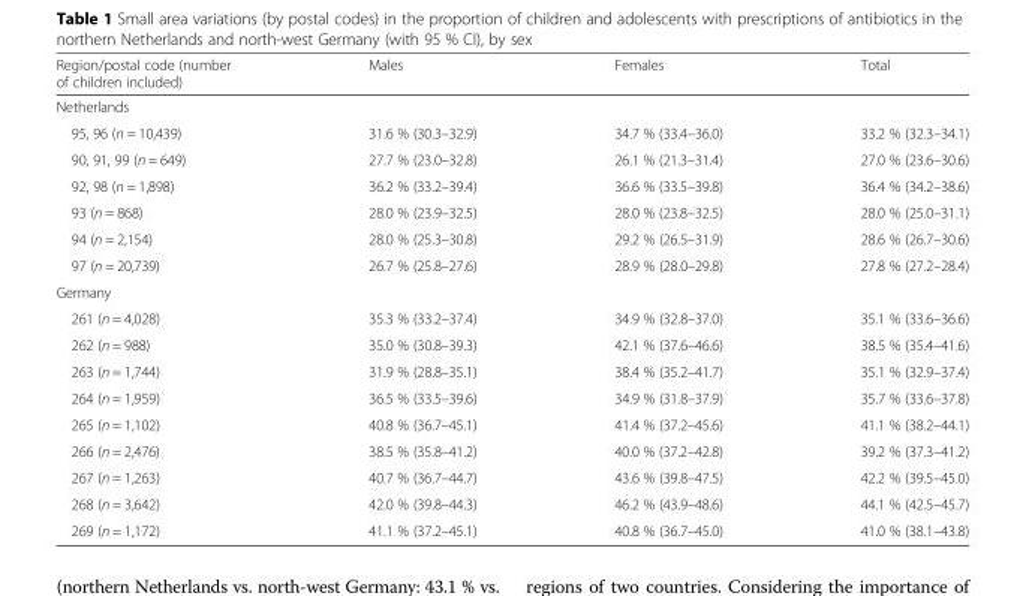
<table><thead><tr><td>Region/postal code (number of children included)</td><td>Males</td><td>Females</td><td>Total</td></tr></thead><tbody><tr><td colspan="4">Netherlands</td></tr><tr><td>95, 96 (n = 10,439)</td><td>31.6 % (30.3–32.9)</td><td>34.7 % (33.4–36.0)</td><td>33.2 % (32.3–34.1)</td></tr><tr><td>90, 91, 99 (n = 649)</td><td>27.7 % (23.0–32.8)</td><td>26.1 % (21.3–31.4)</td><td>27.0 % (23.6–30.6)</td></tr><tr><td>92, 98 (n = 1,898)</td><td>36.2 % (33.2–39.4)</td><td>36.6 % (33.5–39.8)</td><td>36.4 % (34.2–38.6)</td></tr><tr><td>93 (n = 868)</td><td>28.0 % (23.9–32.5)</td><td>28.0 % (23.8–32.5)</td><td>28.0 % (25.0–31.1)</td></tr><tr><td>94 (n = 2,154)</td><td>28.0 % (25.3–30.8)</td><td>29.2 % (26.5–31.9)</td><td>28.6 % (26.7–30.6)</td></tr><tr><td>97 (n = 20,739)</td><td>26.7 % (25.8–27.6)</td><td>28.9 % (28.0–29.8)</td><td>27.8 % (27.2–28.4)</td></tr><tr><td colspan="4">Germany</td></tr><tr><td>261 (n = 4,028)</td><td>35.3 % (33.2–37.4)</td><td>34.9 % (32.8–37.0)</td><td>35.1 % (33.6–36.6)</td></tr><tr><td>262 (n = 988)</td><td>35.0 % (30.8–39.3)</td><td>42.1 % (37.6–46.6)</td><td>38.5 % (35.4–41.6)</td></tr><tr><td>263 (n = 1,744)</td><td>31.9 % (28.8–35.1)</td><td>38.4 % (35.2–41.7)</td><td>35.1 % (32.9–37.4)</td></tr><tr><td>264 (n = 1,959)</td><td>36.5 % (33.5–39.6)</td><td>34.9 % (31.8–37.9)</td><td>35.7 % (33.6–37.8)</td></tr><tr><td>265 (n = 1,102)</td><td>40.8 % (36.7–45.1)</td><td>41.4 % (37.2–45.6)</td><td>41.1 % (38.2–44.1)</td></tr><tr><td>266 (n = 2,476)</td><td>38.5 % (35.8–41.2)</td><td>40.0 % (37.2–42.8)</td><td>39.2 % (37.3–41.2)</td></tr><tr><td>267 (n = 1,263)</td><td>40.7 % (36.7–44.7)</td><td>43.6 % (39.8–47.5)</td><td>42.2 % (39.5–45.0)</td></tr><tr><td>268 (n = 3,642)</td><td>42.0 % (39.8–44.3)</td><td>46.2 % (43.9–48.6)</td><td>44.1 % (42.5–45.7)</td></tr><tr><td>269 (n = 1,172)</td><td>41.1 % (37.2–45.1)</td><td>40.8 % (36.7–45.0)</td><td>41.0 % (38.1–43.8)</td></tr></tbody></table>